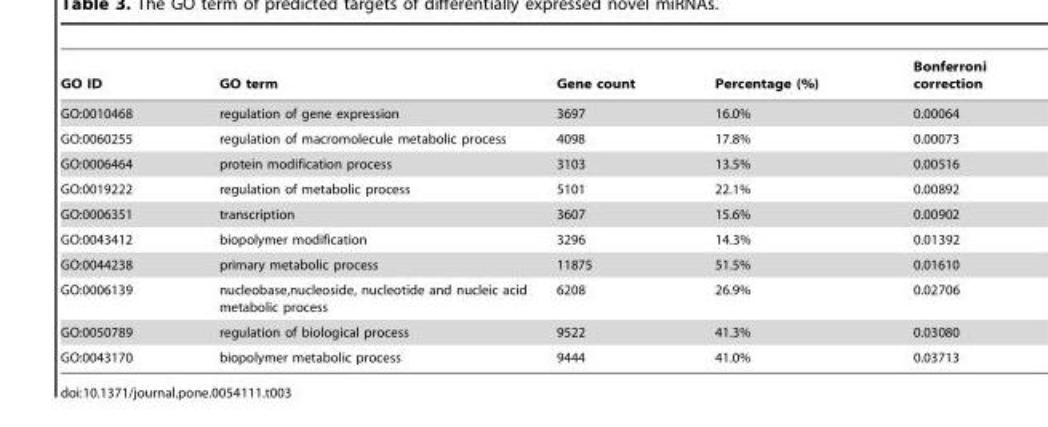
<table><thead><tr><td>GO ID</td><td>GO term</td><td>Gene count</td><td>Percentage (%)</td><td>Bonferroni correction</td></tr></thead><tbody><tr><td>GO:0010468</td><td>regulation of gene expression</td><td>3697</td><td>16.0%</td><td>0.00064</td></tr><tr><td>GO:0060255</td><td>regulation of macromolecule metabolic process</td><td>4098</td><td>17.8%</td><td>0.00073</td></tr><tr><td>GO:0006464</td><td>protein modification process</td><td>3103</td><td>13.5%</td><td>0.00516</td></tr><tr><td>GO:0019222</td><td>regulation of metabolic process</td><td>5101</td><td>22.1%</td><td>0.00892</td></tr><tr><td>GO:0006351</td><td>transcription</td><td>3607</td><td>15.6%</td><td>0.00902</td></tr><tr><td>GO:0043412</td><td>biopolymer modification</td><td>3296</td><td>14.3%</td><td>0.01392</td></tr><tr><td>GO:0044238</td><td>primary metabolic process</td><td>11875</td><td>51.5%</td><td>0.01610</td></tr><tr><td>GO:0006139</td><td>nucleobase,nucleoside, nucleotide and nucleic acid metabolic process</td><td>6208</td><td>26.9%</td><td>0.02706</td></tr><tr><td>GO:0050789</td><td>regulation of biological process</td><td>9522</td><td>41.3%</td><td>0.03080</td></tr><tr><td>GO:0043170</td><td>biopolymer metabolic process</td><td>9444</td><td>41.0%</td><td>0.03713</td></tr></tbody></table>